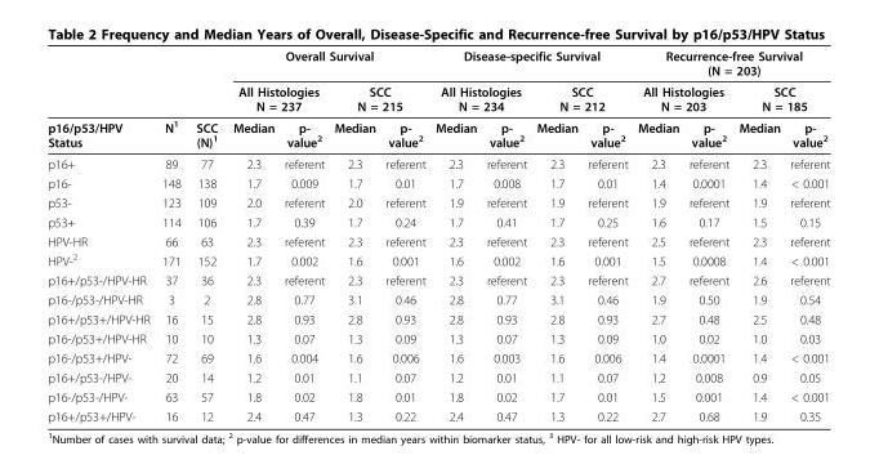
<table><thead><tr><td rowspan="3">p16/p53/HPV Status</td><td rowspan="3">N<sup>1</sup></td><td rowspan="3">SCC (N)<sup>1</sup></td><td colspan="4">Overall Survival</td><td colspan="4">Disease-specific Survival</td><td colspan="4">Recurrence-free Survival (N = 203)</td></tr><tr><td colspan="2">All Histologies N = 237</td><td colspan="2">SCC N = 215</td><td colspan="2">All Histologies N = 234</td><td colspan="2">SCC N = 212</td><td colspan="2">All Histologies N = 203</td><td colspan="2">SCC N = 185</td></tr><tr><td>Median</td><td>p- value<sup>2</sup></td><td>Median</td><td>p- value<sup>2</sup></td><td>Median</td><td>p- value<sup>2</sup></td><td>Median</td><td>p- value<sup>2</sup></td><td>Median</td><td>p- value<sup>2</sup></td><td>Median</td><td>p- value<sup>2</sup></td></tr></thead><tbody><tr><td>p16+</td><td>89</td><td>77</td><td>2.3</td><td>referent</td><td>2.3</td><td>referent</td><td>2.3</td><td>referent</td><td>2.3</td><td>referent</td><td>2.3</td><td>referent</td><td>2.3</td><td>referent</td></tr><tr><td>p16-</td><td>148</td><td>138</td><td>1.7</td><td>0.009</td><td>1.7</td><td>0.01</td><td>1.7</td><td>0.008</td><td>1.7</td><td>0.01</td><td>1.4</td><td>0.0001</td><td>1.4</td><td>&lt; 0.001</td></tr><tr><td>p53-</td><td>123</td><td>109</td><td>2.0</td><td>referent</td><td>2.0</td><td>referent</td><td>1.9</td><td>referent</td><td>1.9</td><td>referent</td><td>1.9</td><td>referent</td><td>1.9</td><td>referent</td></tr><tr><td>p53+</td><td>114</td><td>106</td><td>1.7</td><td>0.39</td><td>1.7</td><td>0.24</td><td>1.7</td><td>0.41</td><td>1.7</td><td>0.25</td><td>1.6</td><td>0.17</td><td>1.5</td><td>0.15</td></tr><tr><td>HPV-HR</td><td>66</td><td>63</td><td>2.3</td><td>referent</td><td>2.3</td><td>referent</td><td>2.3</td><td>referent</td><td>2.3</td><td>referent</td><td>2.5</td><td>referent</td><td>2.3</td><td>referent</td></tr><tr><td>HPV-<sup>2</sup></td><td>171</td><td>152</td><td>1.7</td><td>0.002</td><td>1.6</td><td>0.001</td><td>1.6</td><td>0.002</td><td>1.6</td><td>0.001</td><td>1.5</td><td>0.0008</td><td>1.4</td><td>&lt; 0.001</td></tr><tr><td>p16+/p53-/HPV-HR</td><td>37</td><td>36</td><td>2.3</td><td>referent</td><td>2.3</td><td>referent</td><td>2.3</td><td>referent</td><td>2.3</td><td>referent</td><td>2.7</td><td>referent</td><td>2.6</td><td>referent</td></tr><tr><td>p16-/p53-/HPV-HR</td><td>3</td><td>2</td><td>2.8</td><td>0.77</td><td>3.1</td><td>0.46</td><td>2.8</td><td>0.77</td><td>3.1</td><td>0.46</td><td>1.9</td><td>0.50</td><td>1.9</td><td>0.54</td></tr><tr><td>p16+/p53+/HPV-HR</td><td>16</td><td>15</td><td>2.8</td><td>0.93</td><td>2.8</td><td>0.93</td><td>2.8</td><td>0.93</td><td>2.8</td><td>0.93</td><td>2.7</td><td>0.48</td><td>2.5</td><td>0.48</td></tr><tr><td>p16-/p53+/HPV-HR</td><td>10</td><td>10</td><td>1.3</td><td>0.07</td><td>1.3</td><td>0.09</td><td>1.3</td><td>0.07</td><td>1.3</td><td>0.09</td><td>1.0</td><td>0.02</td><td>1.0</td><td>0.03</td></tr><tr><td>p16-/p53+/HPV-</td><td>72</td><td>69</td><td>1.6</td><td>0.004</td><td>1.6</td><td>0.006</td><td>1.6</td><td>0.003</td><td>1.6</td><td>0.006</td><td>1.4</td><td>0.0001</td><td>1.4</td><td>&lt; 0.001</td></tr><tr><td>p16+/p53-/HPV-</td><td>20</td><td>14</td><td>1.2</td><td>0.01</td><td>1.1</td><td>0.07</td><td>1.2</td><td>0.01</td><td>1.1</td><td>0.07</td><td>1.2</td><td>0.008</td><td>0.9</td><td>0.05</td></tr><tr><td>p16-/p53-/HPV-</td><td>63</td><td>57</td><td>1.8</td><td>0.02</td><td>1.8</td><td>0.01</td><td>1.8</td><td>0.02</td><td>1.7</td><td>0.01</td><td>1.5</td><td>0.001</td><td>1.4</td><td>&lt; 0.001</td></tr><tr><td>p16+/p53+/HPV-</td><td>16</td><td>12</td><td>2.4</td><td>0.47</td><td>1.3</td><td>0.22</td><td>2.4</td><td>0.47</td><td>1.3</td><td>0.22</td><td>2.7</td><td>0.68</td><td>1.9</td><td>0.35</td></tr></tbody></table>